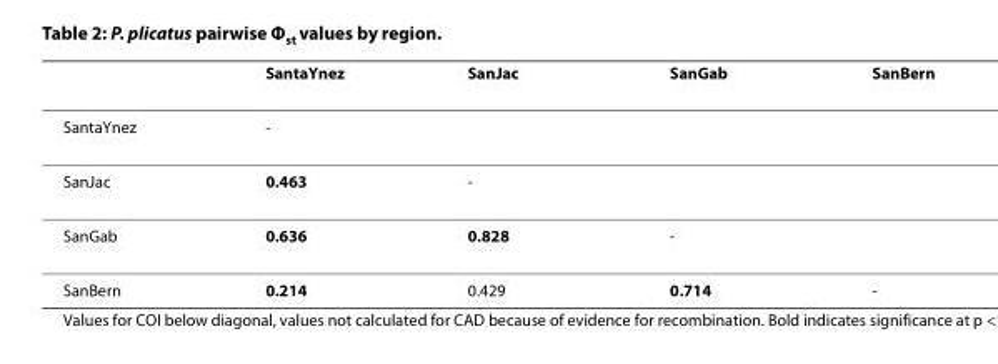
<table><thead><tr><td></td><td>SantaYnez</td><td>SanJac</td><td>SanGab</td><td>SanBern</td></tr></thead><tbody><tr><td>SantaYnez</td><td>-</td><td></td><td></td><td></td></tr><tr><td>SanJac</td><td>0.463</td><td>-</td><td></td><td></td></tr><tr><td>SanGab</td><td>0.636</td><td>0.828</td><td>-</td><td></td></tr><tr><td>SanBern</td><td>0.214</td><td>0.429</td><td>0.714</td><td>-</td></tr></tbody></table>